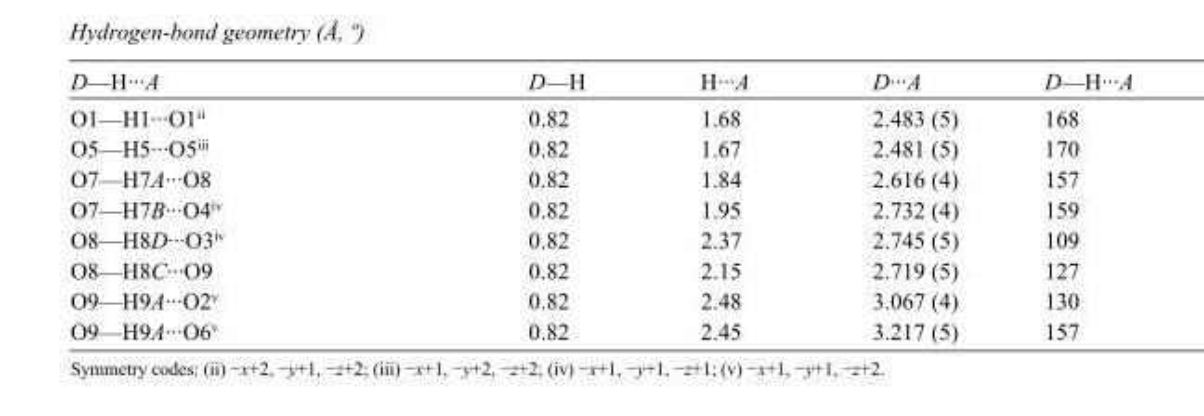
<table><tbody><tr><td>D—H···A</td><td>D—H</td><td>H···A</td><td>D···A</td><td>D—H···A</td></tr><tr><td>O1—H1···O1<sup>ii</sup></td><td>0.82</td><td>1.68</td><td>2.483 (5)</td><td>168</td></tr><tr><td>O5—H5···O5<sup>iii</sup></td><td>0.82</td><td>1.67</td><td>2.481 (5)</td><td>170</td></tr><tr><td>O7—H7A···O8</td><td>0.82</td><td>1.84</td><td>2.616 (4)</td><td>157</td></tr><tr><td>O7—H7B···O4<sup>iv</sup></td><td>0.82</td><td>1.95</td><td>2.732 (4)</td><td>159</td></tr><tr><td>O8—H8D···O3<sup>iv</sup></td><td>0.82</td><td>2.37</td><td>2.745 (5)</td><td>109</td></tr><tr><td>O8—H8C···O9</td><td>0.82</td><td>2.15</td><td>2.719 (5)</td><td>127</td></tr><tr><td>O9—H9A···O2<sup>v</sup></td><td>0.82</td><td>2.48</td><td>3.067 (4)</td><td>130</td></tr><tr><td>O9—H9A···O6<sup>v</sup></td><td>0.82</td><td>2.45</td><td>3.217 (5)</td><td>157</td></tr></tbody></table>